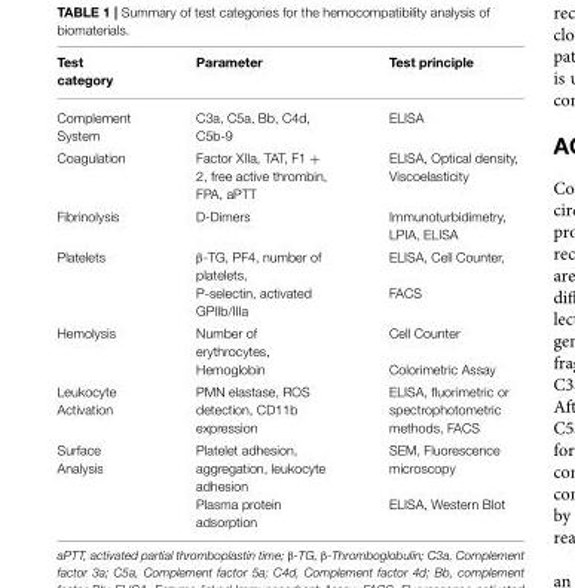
<table><thead><tr><td>Test category</td><td>Parameter</td><td>Test principle</td></tr></thead><tbody><tr><td>Complement System</td><td>C3a, C5a, Bb, C4d, C5b-9</td><td>ELISA</td></tr><tr><td>Coagulation</td><td>Factor XIIa, TAT, F1 + 2, free active thrombin, FPA, aPTT</td><td>ELISA, Optical density, Viscoelasticity</td></tr><tr><td>Fibrinolysis</td><td>D-Dimers</td><td>Immunoturbidimetry, LPIA, ELISA</td></tr><tr><td>Platelets</td><td>β-TG, PF4, number of platelets, P-selectin, activated GPIIb/IIIa</td><td>ELISA, Cell Counter, FACS</td></tr><tr><td>Hemolysis</td><td>Number of erythrocytes, Hemoglobin</td><td>Cell Counter Colorimetric Assay</td></tr><tr><td>Leukocyte Activation</td><td>PMN elastase, ROS detection, CD11b expression</td><td>ELISA, fluorimetric or spectrophotometric methods, FACS</td></tr><tr><td>Surface Analysis</td><td>Platelet adhesion, aggregation, leukocyte adhesion Plasma protein adsorption</td><td>SEM, Fluorescence microscopy ELISA, Western Blot</td></tr></tbody></table>